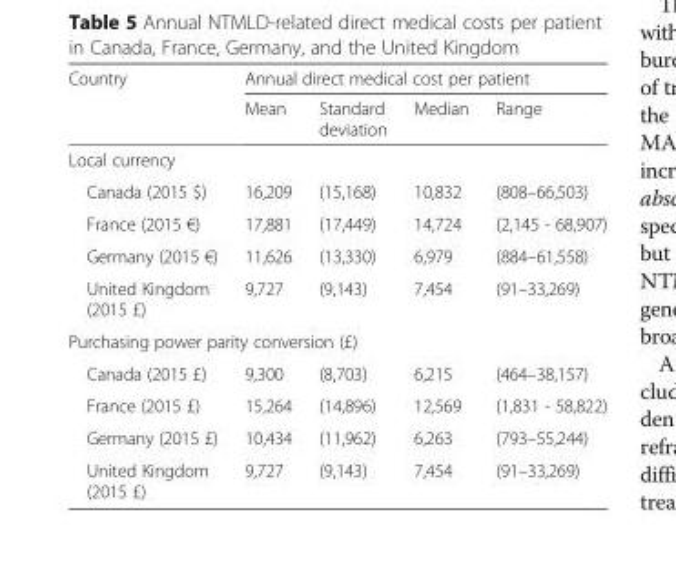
<table><thead><tr><td rowspan="2">Country</td><td colspan="4">Annual direct medical cost per patient</td></tr><tr><td>Mean</td><td>Standard deviation</td><td>Median</td><td>Range</td></tr></thead><tbody><tr><td colspan="5">Local currency</td></tr><tr><td>Canada (2015 $)</td><td>16,209</td><td>(15,168)</td><td>10,832</td><td>(808–66,503)</td></tr><tr><td>France (2015 €)</td><td>17,881</td><td>(17,449)</td><td>14,724</td><td>(2,145 - 68,907)</td></tr><tr><td>Germany (2015 €)</td><td>11,626</td><td>(13,330)</td><td>6,979</td><td>(884–61,558)</td></tr><tr><td>United Kingdom (2015 £)</td><td>9,727</td><td>(9,143)</td><td>7,454</td><td>(91–33,269)</td></tr><tr><td colspan="5">Purchasing power parity conversion (£)</td></tr><tr><td>Canada (2015 £)</td><td>9,300</td><td>(8,703)</td><td>6,215</td><td>(464–38,157)</td></tr><tr><td>France (2015 £)</td><td>15,264</td><td>(14,896)</td><td>12,569</td><td>(1,831 - 58,822)</td></tr><tr><td>Germany (2015 £)</td><td>10,434</td><td>(11,962)</td><td>6,263</td><td>(793–55,244)</td></tr><tr><td>United Kingdom (2015 £)</td><td>9,727</td><td>(9,143)</td><td>7,454</td><td>(91–33,269)</td></tr></tbody></table>